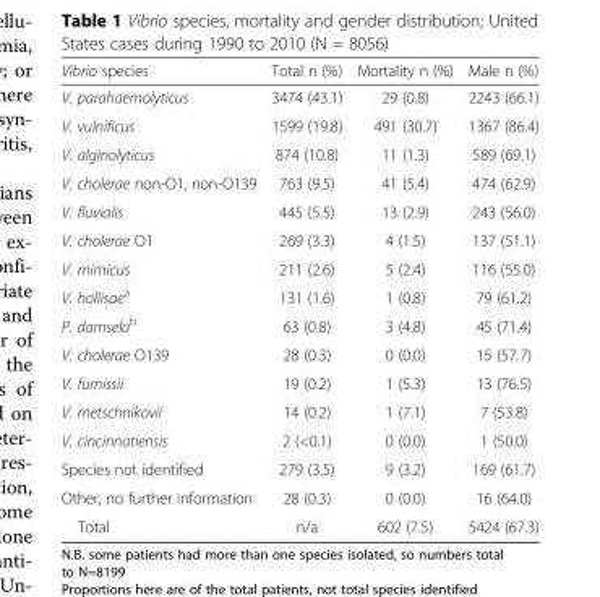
<table><thead><tr><td>Vibrio species</td><td>Total n (%)</td><td>Mortality n (%)</td><td>Male n (%)</td></tr></thead><tbody><tr><td>V. parahaemolyticus</td><td>3474 (43.1)</td><td>29 (0.8)</td><td>2243 (66.1)</td></tr><tr><td>V. vulnificus</td><td>1599 (19.8)</td><td>491 (30.7)</td><td>1367 (86.4)</td></tr><tr><td>V. alginolyticus</td><td>874 (10.8)</td><td>11 (1.3)</td><td>589 (69.1)</td></tr><tr><td>V. cholerae non-O1, non-O139</td><td>763 (9.5)</td><td>41 (5.4)</td><td>474 (62.9)</td></tr><tr><td>V. fluvialis</td><td>445 (5.5)</td><td>13 (2.9)</td><td>243 (56.0)</td></tr><tr><td>V. cholerae O1</td><td>269 (3.3)</td><td>4 (1.5)</td><td>137 (51.1)</td></tr><tr><td>V. mimicus</td><td>211 (2.6)</td><td>5 (2.4)</td><td>116 (55.0)</td></tr><tr><td>V. hollisae<sup>a</sup></td><td>131 (1.6)</td><td>1 (0.8)</td><td>79 (61.2)</td></tr><tr><td>P. damsela<sup>b</sup></td><td>63 (0.8)</td><td>3 (4.8)</td><td>45 (71.4)</td></tr><tr><td>V. cholerae O139</td><td>28 (0.3)</td><td>0 (0.0)</td><td>15 (57.7)</td></tr><tr><td>V. furnissii</td><td>19 (0.2)</td><td>1 (5.3)</td><td>13 (76.5)</td></tr><tr><td>V. metschnikovii</td><td>14 (0.2)</td><td>1 (7.1)</td><td>7 (53.8)</td></tr><tr><td>V. cincinnatiensis</td><td>2 (&lt;0.1)</td><td>0 (0.0)</td><td>1 (50.0)</td></tr><tr><td>Species not identified</td><td>279 (3.5)</td><td>9 (3.2)</td><td>169 (61.7)</td></tr><tr><td>Other, no further information</td><td>28 (0.3)</td><td>0 (0.0)</td><td>16 (64.0)</td></tr><tr><td>Total</td><td>n/a</td><td>602 (7.5)</td><td>5424 (67.3)</td></tr></tbody></table>